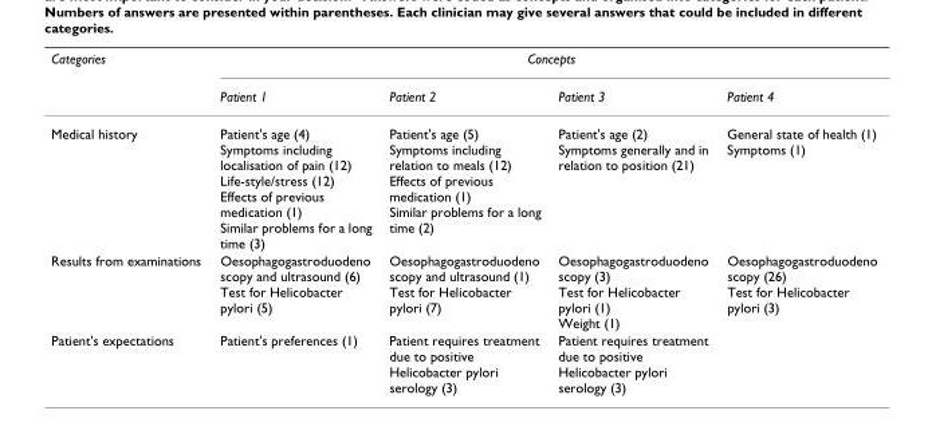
<table><thead><tr><td rowspan="2">Categories</td><td colspan="4">Concepts</td></tr><tr><td>Patient 1</td><td>Patient 2</td><td>Patient 3</td><td>Patient 4</td></tr></thead><tbody><tr><td>Medical history</td><td>Patient&#x27;s age (4) Symptoms including localisation of pain (12) Life-style/stress (12) Effects of previous medication (1) Similar problems for a long time (3)</td><td>Patient&#x27;s age (5) Symptoms including relation to meals (12) Effects of previous medication (1) Similar problems for a long time (2)</td><td>Patient&#x27;s age (2) Symptoms generally and in relation to position (21)</td><td>General state of health (1) Symptoms (1)</td></tr><tr><td>Results from examinations</td><td>Oesophagogastroduodeno scopy and ultrasound (6) Test for Helicobacter pylori (5)</td><td>Oesophagogastroduodeno scopy and ultrasound (1) Test for Helicobacter pylori (7)</td><td>Oesophagogastroduodeno scopy (3) Test for Helicobacter pylori (1) Weight (1)</td><td>Oesophagogastroduodeno scopy (26) Test for Helicobacter pylori (3)</td></tr><tr><td>Patient&#x27;s expectations</td><td>Patient&#x27;s preferences (1)</td><td>Patient requires treatment due to positive Helicobacter pylori serology (3)</td><td>Patient requires treatment due to positive Helicobacter pylori serology (3)</td><td></td></tr></tbody></table>